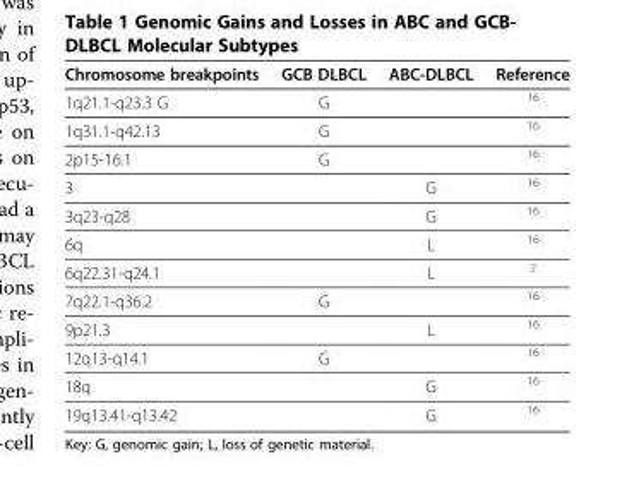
<table><thead><tr><td>Chromosome breakpoints</td><td>GCB DLBCL</td><td>ABC-DLBCL</td><td>Reference</td></tr></thead><tbody><tr><td>1q21.1-q23.3 G</td><td>G</td><td></td><td><sup>16</sup></td></tr><tr><td>1q31.1-q42.13</td><td>G</td><td></td><td><sup>16</sup></td></tr><tr><td>2p15-16.1</td><td>G</td><td></td><td><sup>16</sup></td></tr><tr><td>3</td><td></td><td>G</td><td><sup>16</sup></td></tr><tr><td>3q23-q28</td><td></td><td>G</td><td><sup>16</sup></td></tr><tr><td>6q</td><td></td><td>L</td><td><sup>16</sup></td></tr><tr><td>6q22.31-q24.1</td><td></td><td>L</td><td><sup>2</sup></td></tr><tr><td>7q22.1-q36.2</td><td>G</td><td></td><td><sup>16</sup></td></tr><tr><td>9p21.3</td><td></td><td>L</td><td><sup>16</sup></td></tr><tr><td>12q13-q14.1</td><td>G</td><td></td><td><sup>16</sup></td></tr><tr><td>18q</td><td></td><td>G</td><td><sup>16</sup></td></tr><tr><td>19q13.41-q13.42</td><td></td><td>G</td><td><sup>16</sup></td></tr></tbody></table>